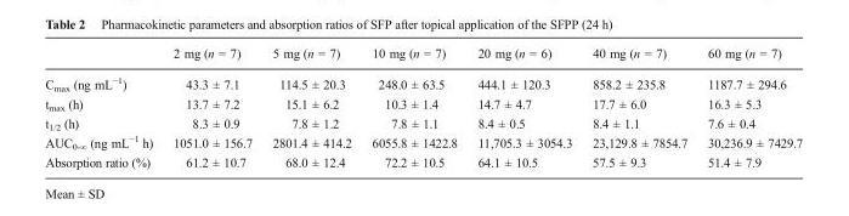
<table><thead><tr><td></td><td>2 mg (n = 7)</td><td>5 mg (n = 7)</td><td>10 mg (n = 7)</td><td>20 mg (n = 6)</td><td>40 mg (n = 7)</td><td>60 mg (n = 7)</td></tr></thead><tbody><tr><td>C<sub>max</sub> (ng mL<sup>−1</sup>)</td><td>43.3 ± 7.1</td><td>114.5 ± 20.3</td><td>248.0 ± 63.5</td><td>444.1 ± 120.3</td><td>858.2 ± 235.8</td><td>1187.7 ± 294.6</td></tr><tr><td>t<sub>max</sub> (h)</td><td>13.7 ± 7.2</td><td>15.1 ± 6.2</td><td>10.3 ± 1.4</td><td>14.7 ± 4.7</td><td>17.7 ± 6.0</td><td>16.3 ± 5.3</td></tr><tr><td>t<sub>1/2</sub> (h)</td><td>8.3 ± 0.9</td><td>7.8 ± 1.2</td><td>7.8 ± 1.1</td><td>8.4 ± 0.5</td><td>8.4 ± 1.1</td><td>7.6 ± 0.4</td></tr><tr><td>AUC<sub>0-∞</sub> (ng mL<sup>−1</sup> h)</td><td>1051.0 ± 156.7</td><td>2801.4 ± 414.2</td><td>6055.8 ± 1422.8</td><td>11,705.3 ± 3054.3</td><td>23,129.8 ± 7854.7</td><td>30,236.9 ± 7429.7</td></tr><tr><td>Absorption ratio (%)</td><td>61.2 ± 10.7</td><td>68.0 ± 12.4</td><td>72.2 ± 10.5</td><td>64.1 ± 10.5</td><td>57.5 ± 9.3</td><td>51.4 ± 7.9</td></tr></tbody></table>